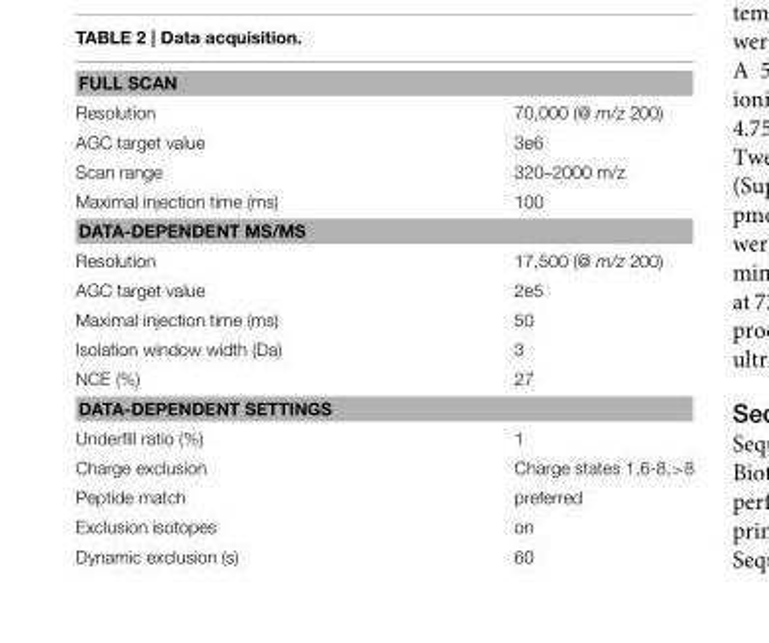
<table><tbody><tr><td colspan="2">FULL SCAN</td></tr><tr><td>Resolution</td><td>70,000 (@ m/z 200)</td></tr><tr><td>AGC target value</td><td>3e6</td></tr><tr><td>Scan range</td><td>320–2000 m/z</td></tr><tr><td>Maximal injection time (ms)</td><td>100</td></tr><tr><td colspan="2">DATA-DEPENDENT MS/MS</td></tr><tr><td>Resolution</td><td>17,500 (@ m/z 200)</td></tr><tr><td>AGC target value</td><td>2e5</td></tr><tr><td>Maximal injection time (ms)</td><td>50</td></tr><tr><td>Isolation window width (Da)</td><td>3</td></tr><tr><td>NCE (%)</td><td>27</td></tr><tr><td colspan="2">DATA-DEPENDENT SETTINGS</td></tr><tr><td>Underfill ratio (%)</td><td>1</td></tr><tr><td>Charge exclusion</td><td>Charge states 1,6-8,&gt;8</td></tr><tr><td>Peptide match</td><td>preferred</td></tr><tr><td>Exclusion isotopes</td><td>on</td></tr><tr><td>Dynamic exclusion (s)</td><td>60</td></tr></tbody></table>